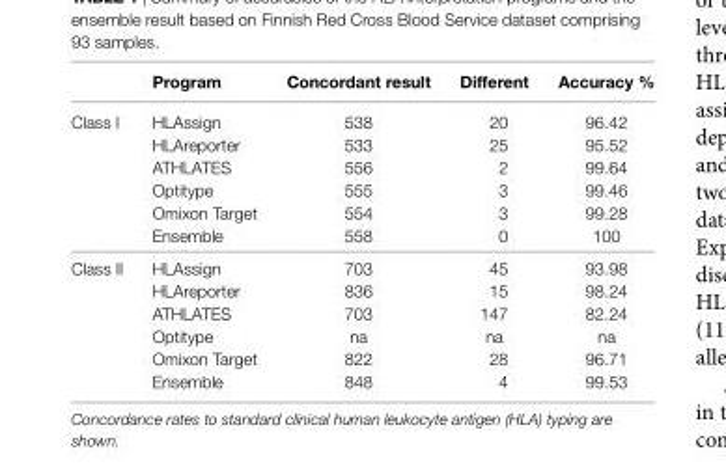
<table><thead><tr><td></td><td>Program</td><td>concordant result</td><td>Different</td><td>accuracy %</td></tr></thead><tbody><tr><td rowspan="6">Class I</td><td>HLAssign</td><td>538</td><td>20</td><td>96.42</td></tr><tr><td>HLAreporter</td><td>533</td><td>25</td><td>95.52</td></tr><tr><td>ATHLATES</td><td>556</td><td>2</td><td>99.64</td></tr><tr><td>Optitype</td><td>555</td><td>3</td><td>99.46</td></tr><tr><td>Omixon Target</td><td>554</td><td>3</td><td>99.28</td></tr><tr><td>Ensemble</td><td>558</td><td>0</td><td>100</td></tr><tr><td rowspan="6">Class II</td><td>HLAssign</td><td>703</td><td>45</td><td>93.98</td></tr><tr><td>HLAreporter</td><td>836</td><td>15</td><td>98.24</td></tr><tr><td>ATHLATES</td><td>703</td><td>147</td><td>82.24</td></tr><tr><td>Optitype</td><td>na</td><td>na</td><td>na</td></tr><tr><td>Omixon Target</td><td>822</td><td>28</td><td>96.71</td></tr><tr><td>Ensemble</td><td>848</td><td>4</td><td>99.53</td></tr></tbody></table>